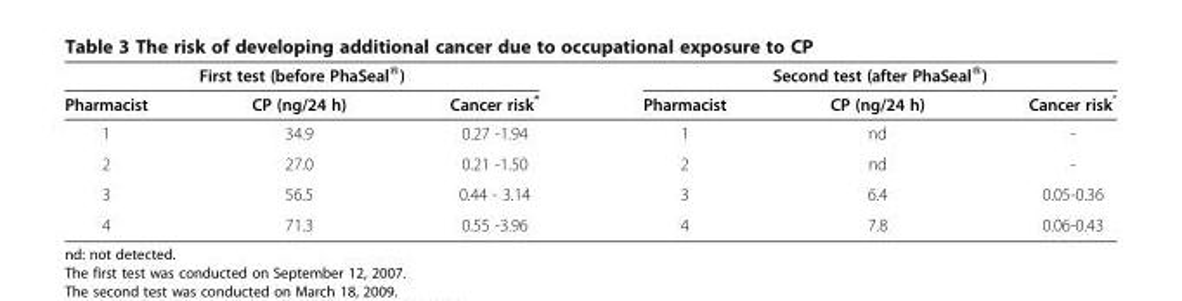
<table><thead><tr><td colspan="3">First test (before PhaSeal<sup>®</sup>)</td><td colspan="3">Second test (after PhaSeal<sup>®</sup>)</td></tr><tr><td>Pharmacist</td><td>CP (ng/24 h)</td><td>Cancer risk*</td><td>Pharmacist</td><td>CP (ng/24 h)</td><td>Cancer risk*</td></tr></thead><tbody><tr><td>1</td><td>34.9</td><td>0.27 -1.94</td><td>1</td><td>nd</td><td>-</td></tr><tr><td>2</td><td>27.0</td><td>0.21 -1.50</td><td>2</td><td>nd</td><td>-</td></tr><tr><td>3</td><td>56.5</td><td>0.44 - 3.14</td><td>3</td><td>6.4</td><td>0.05-0.36</td></tr><tr><td>4</td><td>71.3</td><td>0.55 -3.96</td><td>4</td><td>7.8</td><td>0.06-0.43</td></tr></tbody></table>